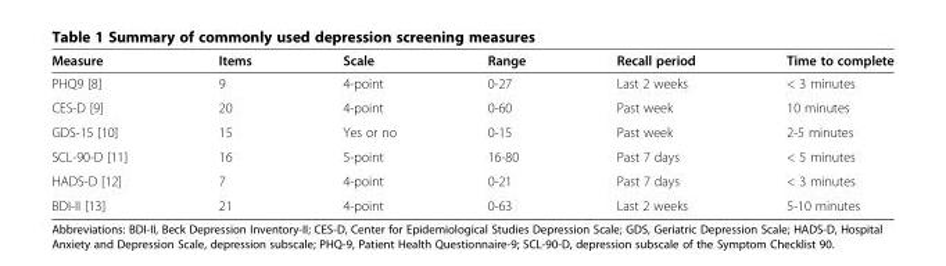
<table><thead><tr><td>Measure</td><td>Items</td><td>Scale</td><td>Range</td><td>Recall period</td><td>Time to complete</td></tr></thead><tbody><tr><td>PHQ9 [8]</td><td>9</td><td>4-point</td><td>0-27</td><td>Last 2 weeks</td><td>&lt; 3 minutes</td></tr><tr><td>CES-D [9]</td><td>20</td><td>4-point</td><td>0-60</td><td>Past week</td><td>10 minutes</td></tr><tr><td>GDS-15 [10]</td><td>15</td><td>Yes or no</td><td>0-15</td><td>Past week</td><td>2-5 minutes</td></tr><tr><td>SCL-90-D [11]</td><td>16</td><td>5-point</td><td>16-80</td><td>Past 7 days</td><td>&lt; 5 minutes</td></tr><tr><td>HADS-D [12]</td><td>7</td><td>4-point</td><td>0-21</td><td>Past 7 days</td><td>&lt; 3 minutes</td></tr><tr><td>BDI-II [13]</td><td>21</td><td>4-point</td><td>0-63</td><td>Last 2 weeks</td><td>5-10 minutes</td></tr></tbody></table>